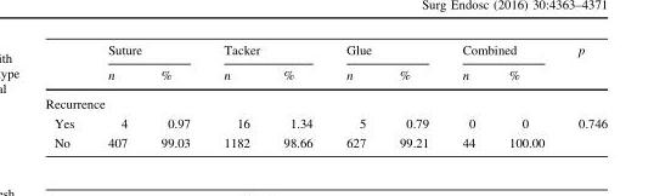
<table><thead><tr><td rowspan="2"></td><td colspan="2">Suture</td><td colspan="2">Tacker</td><td colspan="2">Glue</td><td colspan="2">Combined</td><td rowspan="2">p</td></tr><tr><td>n</td><td>%</td><td>n</td><td>%</td><td>n</td><td>%</td><td>n</td><td>%</td></tr></thead><tbody><tr><td colspan="10">Recurrence</td></tr><tr><td>Yes</td><td>4</td><td>0.97</td><td>16</td><td>1.34</td><td>5</td><td>0.79</td><td>0</td><td>0</td><td>0.746</td></tr><tr><td>No</td><td>407</td><td>99.03</td><td>1182</td><td>98.66</td><td>627</td><td>99.21</td><td>44</td><td>100.00</td><td></td></tr></tbody></table>